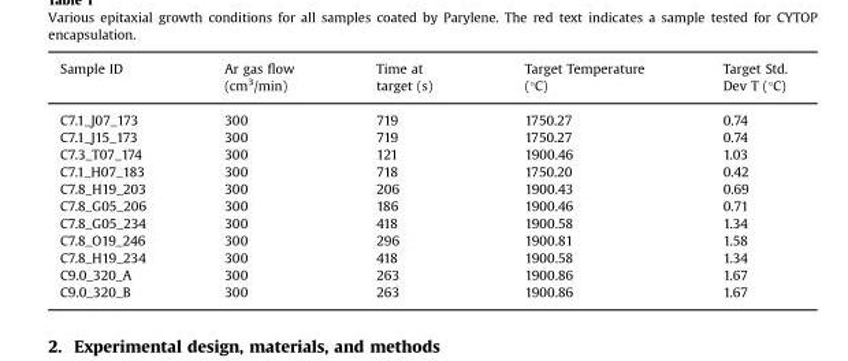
<table><thead><tr><td>Sample ID</td><td>Ar gas flow (cm<sup>3</sup>/min)</td><td>Time at target (s)</td><td>Target Temperature (°C)</td><td>Target Std. Dev T (°C)</td></tr></thead><tbody><tr><td>C7.1_J07_173</td><td>300</td><td>719</td><td>1750.27</td><td>0.74</td></tr><tr><td>C7.1_J15_173</td><td>300</td><td>719</td><td>1750.27</td><td>0.74</td></tr><tr><td>C7.3_T07_174</td><td>300</td><td>121</td><td>1900.46</td><td>1.03</td></tr><tr><td>C7.1_H07_183</td><td>300</td><td>718</td><td>1750.20</td><td>0.42</td></tr><tr><td>C7.8_H19_203</td><td>300</td><td>206</td><td>1900.43</td><td>0.69</td></tr><tr><td>C7.8_G05_206</td><td>300</td><td>186</td><td>1900.46</td><td>0.71</td></tr><tr><td>C7.8_G05_234</td><td>300</td><td>418</td><td>1900.58</td><td>1.34</td></tr><tr><td>C7.8_O19_246</td><td>300</td><td>296</td><td>1900.81</td><td>1.58</td></tr><tr><td>C7.8_H19_234</td><td>300</td><td>418</td><td>1900.58</td><td>1.34</td></tr><tr><td>C9.0_320_A</td><td>300</td><td>263</td><td>1900.86</td><td>1.67</td></tr><tr><td>C9.0_320_B</td><td>300</td><td>263</td><td>1900.86</td><td>1.67</td></tr></tbody></table>